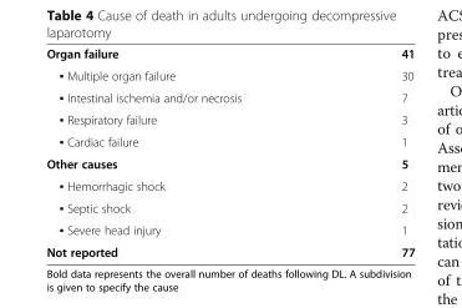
<table><tbody><tr><td>Organ failure</td><td>41</td></tr><tr><td>▪ Multiple organ failure</td><td>30</td></tr><tr><td>▪ Intestinal ischemia and/or necrosis</td><td>7</td></tr><tr><td>▪ Respiratory failure</td><td>3</td></tr><tr><td>▪ Cardiac failure</td><td>1</td></tr><tr><td>Other causes</td><td>5</td></tr><tr><td>▪ Hemorrhagic shock</td><td>2</td></tr><tr><td>▪ Septic shock</td><td>2</td></tr><tr><td>▪ Severe head injury</td><td>1</td></tr><tr><td>Not reported</td><td>77</td></tr></tbody></table>